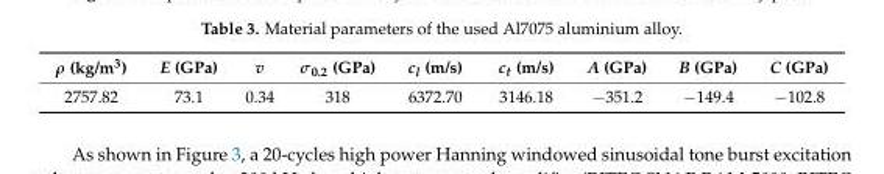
<table><thead><tr><td>ρ (kg/m<sup>3</sup>)</td><td>E (GPa)</td><td>v</td><td>σ<sub>0.2</sub> (GPa)</td><td>c<sub>l</sub> (m/s)</td><td>c<sub>t</sub> (m/s)</td><td>A (GPa)</td><td>B (GPa)</td><td>C (GPa)</td></tr></thead><tbody><tr><td>2757.82</td><td>73.1</td><td>0.34</td><td>318</td><td>6372.70</td><td>3146.18</td><td>−351.2</td><td>−149.4</td><td>−102.8</td></tr></tbody></table>